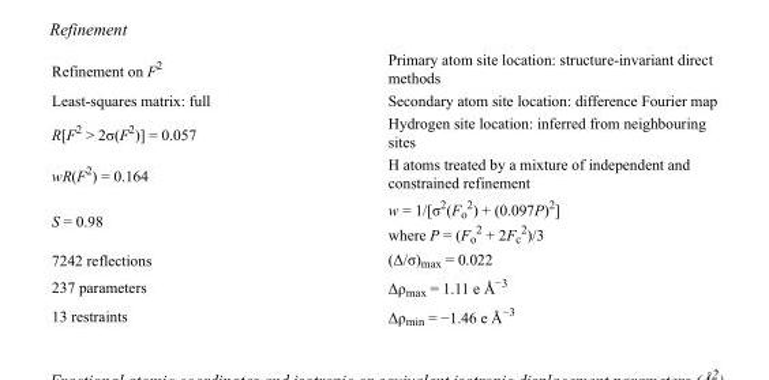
<table><tbody><tr><td>Refinement on F<sup>2</sup></td><td>Primary atom site location: structure-invariant direct methods</td></tr><tr><td>Least-squares matrix: full</td><td>Secondary atom site location: difference Fourier map</td></tr><tr><td>R[F<sup>2</sup> &gt; 2σ(F<sup>2</sup>)] = 0.057</td><td>Hydrogen site location: inferred from neighbouring sites</td></tr><tr><td>wR(F<sup>2</sup>) = 0.164</td><td>H atoms treated by a mixture of independent and constrained refinement</td></tr><tr><td>S = 0.98</td><td>w = 1/[σ<sup>2</sup>(F<sub>o</sub> <sup>2</sup>) + (0.097P)<sup>2</sup>] where P = (F<sub>o</sub> <sup>2</sup> + 2F<sub>c</sub> <sup>2</sup>)/3</td></tr><tr><td>7242 reflections</td><td>(Δ/σ)<sub>max</sub> = 0.022</td></tr><tr><td>237 parameters</td><td>Δρ<sub>max</sub> = 1.11 e Å<sup>−3</sup></td></tr><tr><td>13 restraints</td><td>Δρ<sub>min</sub> = −1.46 e Å<sup>−3</sup></td></tr></tbody></table>